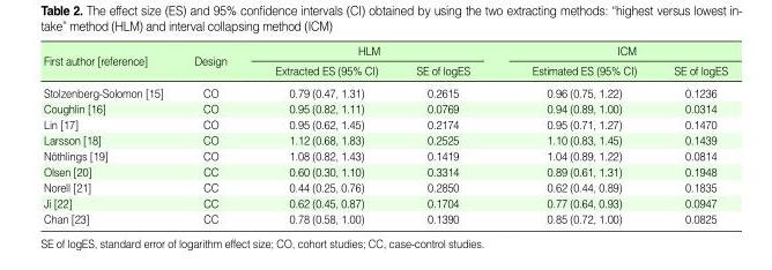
<table><thead><tr><td rowspan="2">First author [reference]</td><td rowspan="2">Design</td><td colspan="2">HLM</td><td colspan="2">ICM</td></tr><tr><td>Extracted ES (95% CI)</td><td>SE of logES</td><td>Estimated ES (95% CI)</td><td>SE of logES</td></tr></thead><tbody><tr><td>Stolzenberg-Solomon [15]</td><td>CO</td><td>0.79 (0.47, 1.31)</td><td>0.2615</td><td>0.96 (0.75, 1.22)</td><td>0.1236</td></tr><tr><td>Coughlin [16]</td><td>CO</td><td>0.95 (0.82, 1.11)</td><td>0.0769</td><td>0.94 (0.89, 1.00)</td><td>0.0314</td></tr><tr><td>Lin [17]</td><td>CO</td><td>0.95 (0.62, 1.45)</td><td>0.2174</td><td>0.95 (0.71, 1.27)</td><td>0.1470</td></tr><tr><td>Larsson [18]</td><td>CO</td><td>1.12 (0.68, 1.83)</td><td>0.2525</td><td>1.10 (0.83, 1.45)</td><td>0.1439</td></tr><tr><td>Nöthlings [19]</td><td>CO</td><td>1.08 (0.82, 1.43)</td><td>0.1419</td><td>1.04 (0.89, 1.22)</td><td>0.0814</td></tr><tr><td>Olsen [20]</td><td>CC</td><td>0.60 (0.30, 1.10)</td><td>0.3314</td><td>0.89 (0.61, 1.31)</td><td>0.1948</td></tr><tr><td>Norell [21]</td><td>CC</td><td>0.44 (0.25, 0.76)</td><td>0.2850</td><td>0.62 (0.44, 0.89)</td><td>0.1835</td></tr><tr><td>Ji [22]</td><td>CC</td><td>0.62 (0.45, 0.87)</td><td>0.1704</td><td>0.77 (0.64, 0.93)</td><td>0.0947</td></tr><tr><td>Chan [23]</td><td>CC</td><td>0.78 (0.58, 1.00)</td><td>0.1390</td><td>0.85 (0.72, 1.00)</td><td>0.0825</td></tr></tbody></table>